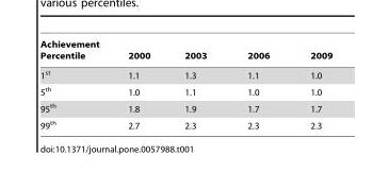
<table><thead><tr><td>Achievement Percentile</td><td>2000</td><td>2003</td><td>2006</td><td>2009</td></tr></thead><tbody><tr><td>1<sup>st</sup></td><td>1.1</td><td>1.3</td><td>1.1</td><td>1.0</td></tr><tr><td>5<sup>th</sup></td><td>1.0</td><td>1.1</td><td>1.0</td><td>1.0</td></tr><tr><td>95<sup>th</sup></td><td>1.8</td><td>1.9</td><td>1.7</td><td>1.7</td></tr><tr><td>99<sup>th</sup></td><td>2.7</td><td>2.3</td><td>2.3</td><td>2.3</td></tr></tbody></table>